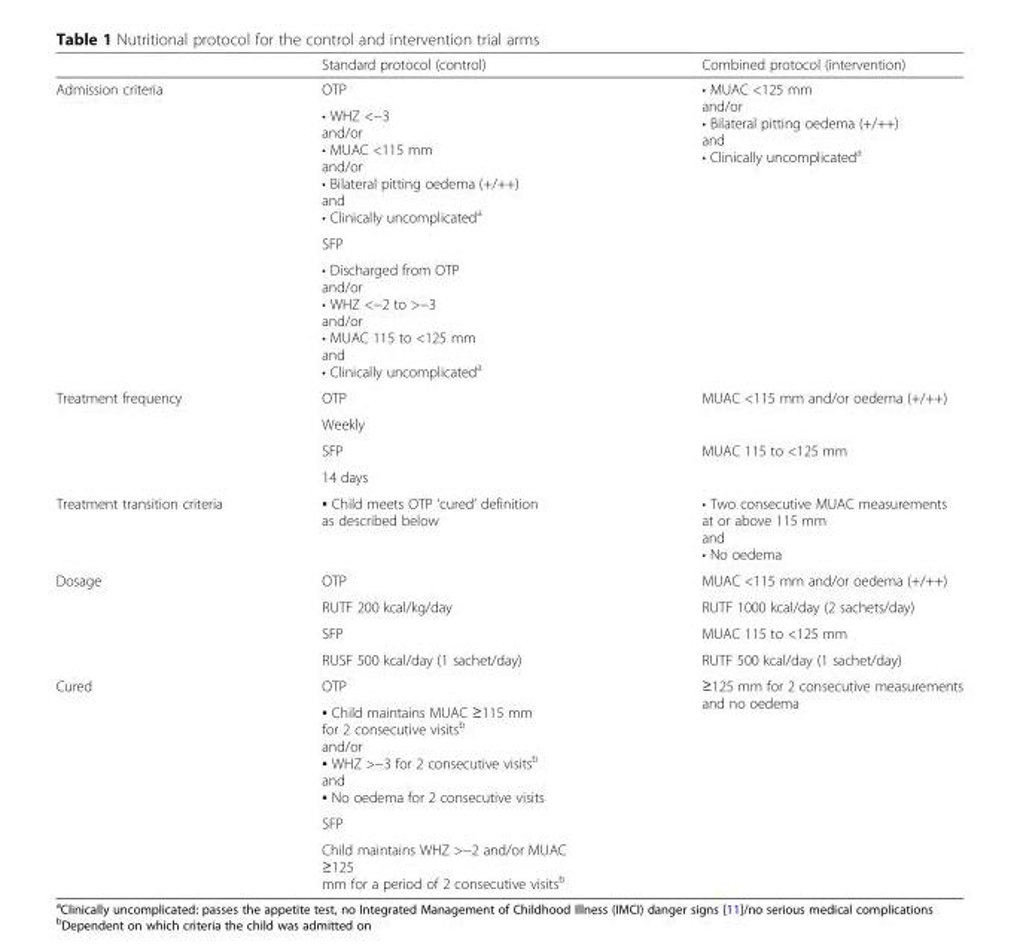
<table><thead><tr><td></td><td>Standard protocol (control)</td><td>Combined protocol (intervention)</td></tr></thead><tbody><tr><td rowspan="4">Admission criteria</td><td>OTP</td><td rowspan="4">• MUAC &lt;125 mm and/or • Bilateral pitting oedema (+/++) and • Clinically uncomplicated<sup>a</sup></td></tr><tr><td>• WHZ &lt;−3 and/or • MUAC &lt;115 mm and/or • Bilateral pitting oedema (+/++) and • Clinically uncomplicated<sup>a</sup></td></tr><tr><td>SFP</td></tr><tr><td>• Discharged from OTP and/or • WHZ &lt;−2 to &gt;−3 and/or • MUAC 115 to &lt;125 mm and • Clinically uncomplicated<sup>a</sup></td></tr><tr><td rowspan="4">Treatment frequency</td><td>OTP</td><td>MUAC &lt;115 mm and/or oedema (+/++)</td></tr><tr><td colspan="2">Weekly</td></tr><tr><td>SFP</td><td>MUAC 115 to &lt;125 mm</td></tr><tr><td colspan="2">14 days</td></tr><tr><td>Treatment transition criteria</td><td>▪ Child meets OTP ‘cured’ definition as described below</td><td>• Two consecutive MUAC measurements at or above 115 mm and • No oedema</td></tr><tr><td rowspan="4">Dosage</td><td>OTP</td><td>MUAC &lt;115 mm and/or oedema (+/++)</td></tr><tr><td>RUTF 200 kcal/kg/day</td><td>RUTF 1000 kcal/day (2 sachets/day)</td></tr><tr><td>SFP</td><td>MUAC 115 to &lt;125 mm</td></tr><tr><td>RUSF 500 kcal/day (1 sachet/day)</td><td>RUTF 500 kcal/day (1 sachet/day)</td></tr><tr><td rowspan="4">Cured</td><td>OTP</td><td rowspan="4">≥125 mm for 2 consecutive measurements and no oedema</td></tr><tr><td>▪ Child maintains MUAC ≥115 mm for 2 consecutive visits<sup>b</sup> and/or ▪ WHZ &gt;−3 for 2 consecutive visits<sup>b</sup> and ▪ No oedema for 2 consecutive visits</td></tr><tr><td>SFP</td></tr><tr><td>Child maintains WHZ &gt;−2 and/or MUAC ≥125 mm for a period of 2 consecutive visits<sup>b</sup></td></tr></tbody></table>